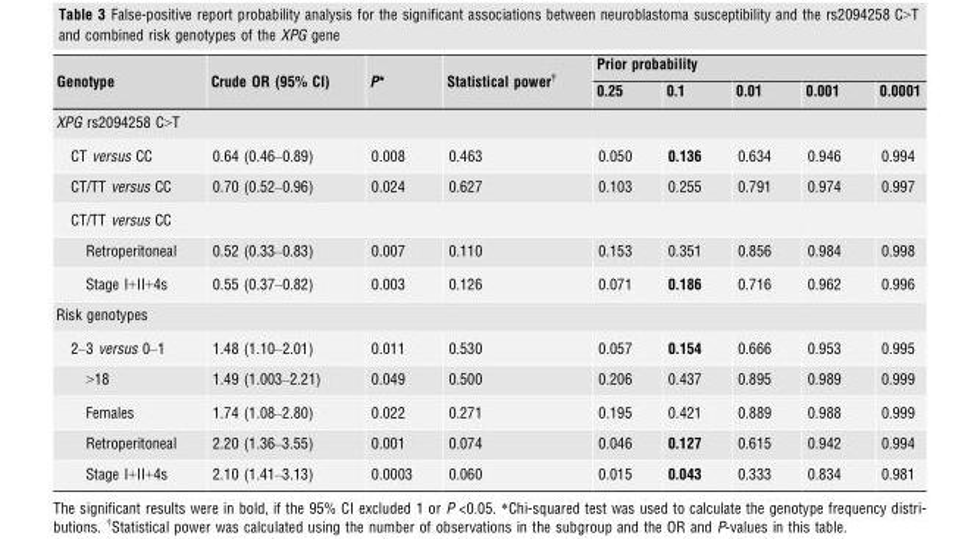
<table><thead><tr><td rowspan="2">Genotype</td><td rowspan="2">Crude OR (95% CI)</td><td rowspan="2">P*</td><td rowspan="2">Statistical power†</td><td colspan="5">Prior probability</td></tr><tr><td>0.25</td><td>0.1</td><td>0.01</td><td>0.001</td><td>0.0001</td></tr></thead><tbody><tr><td colspan="9">XPG rs2094258 C&gt;T</td></tr><tr><td>CT versus CC</td><td>0.64 (0.46–0.89)</td><td>0.008</td><td>0.463</td><td>0.050</td><td>0.136</td><td>0.634</td><td>0.946</td><td>0.994</td></tr><tr><td>CT/TT versus CC</td><td>0.70 (0.52–0.96)</td><td>0.024</td><td>0.627</td><td>0.103</td><td>0.255</td><td>0.791</td><td>0.974</td><td>0.997</td></tr><tr><td colspan="9">CT/TT versus CC</td></tr><tr><td>Retroperitoneal</td><td>0.52 (0.33–0.83)</td><td>0.007</td><td>0.110</td><td>0.153</td><td>0.351</td><td>0.856</td><td>0.984</td><td>0.998</td></tr><tr><td>Stage I+II+4s</td><td>0.55 (0.37–0.82)</td><td>0.003</td><td>0.126</td><td>0.071</td><td>0.186</td><td>0.716</td><td>0.962</td><td>0.996</td></tr><tr><td colspan="9">Risk genotypes</td></tr><tr><td>2–3 versus 0–1</td><td>1.48 (1.10–2.01)</td><td>0.011</td><td>0.530</td><td>0.057</td><td>0.154</td><td>0.666</td><td>0.953</td><td>0.995</td></tr><tr><td>&gt;18</td><td>1.49 (1.003–2.21)</td><td>0.049</td><td>0.500</td><td>0.206</td><td>0.437</td><td>0.895</td><td>0.989</td><td>0.999</td></tr><tr><td>Females</td><td>1.74 (1.08–2.80)</td><td>0.022</td><td>0.271</td><td>0.195</td><td>0.421</td><td>0.889</td><td>0.988</td><td>0.999</td></tr><tr><td>Retroperitoneal</td><td>2.20 (1.36–3.55)</td><td>0.001</td><td>0.074</td><td>0.046</td><td>0.127</td><td>0.615</td><td>0.942</td><td>0.994</td></tr><tr><td>Stage I+II+4s</td><td>2.10 (1.41–3.13)</td><td>0.0003</td><td>0.060</td><td>0.015</td><td>0.043</td><td>0.333</td><td>0.834</td><td>0.981</td></tr></tbody></table>